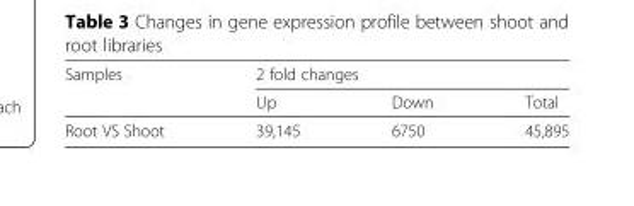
<table><thead><tr><td rowspan="2">Samples</td><td colspan="3">2 fold changes</td></tr><tr><td>Up</td><td>Down</td><td>Total</td></tr></thead><tbody><tr><td>Root VS Shoot</td><td>39,145</td><td>6750</td><td>45,895</td></tr></tbody></table>